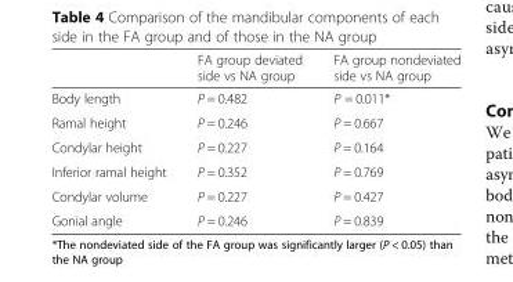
<table><thead><tr><td></td><td>FA group deviated side vs NA group</td><td>FA group nondeviated side vs NA group</td></tr></thead><tbody><tr><td>Body length</td><td>P = 0.482</td><td>P = 0.011*</td></tr><tr><td>Ramal height</td><td>P = 0.246</td><td>P = 0.667</td></tr><tr><td>Condylar height</td><td>P = 0.227</td><td>P = 0.164</td></tr><tr><td>Inferior ramal height</td><td>P = 0.352</td><td>P = 0.769</td></tr><tr><td>Condylar volume</td><td>P = 0.227</td><td>P = 0.427</td></tr><tr><td>Gonial angle</td><td>P = 0.246</td><td>P = 0.839</td></tr></tbody></table>